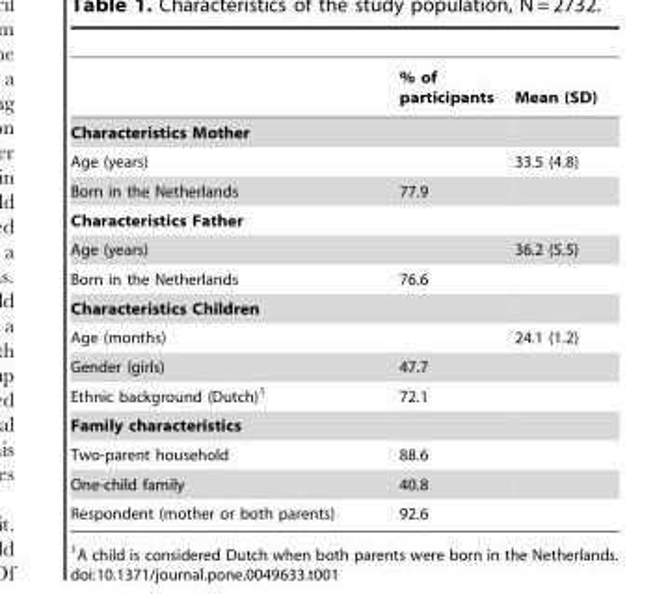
<table><thead><tr><td></td><td>% of participants</td><td>Mean (SD)</td></tr></thead><tbody><tr><td colspan="3">Characteristics Mother</td></tr><tr><td>Age (years)</td><td></td><td>33.5 (4.8)</td></tr><tr><td>Born in the Netherlands</td><td>77.9</td><td></td></tr><tr><td colspan="3">Characteristics Father</td></tr><tr><td>Age (years)</td><td></td><td>36.2 (5.5)</td></tr><tr><td>Born in the Netherlands</td><td>76.6</td><td></td></tr><tr><td colspan="3">Characteristics Children</td></tr><tr><td>Age (months)</td><td></td><td>24.1 (1.2)</td></tr><tr><td>Gender (girls)</td><td>47.7</td><td></td></tr><tr><td>Ethnic background (Dutch)<sup>1</sup></td><td>72.1</td><td></td></tr><tr><td colspan="3">Family characteristics</td></tr><tr><td>Two-parent household</td><td>88.6</td><td></td></tr><tr><td>One-child family</td><td>40.8</td><td></td></tr><tr><td>Respondent (mother or both parents)</td><td>92.6</td><td></td></tr></tbody></table>